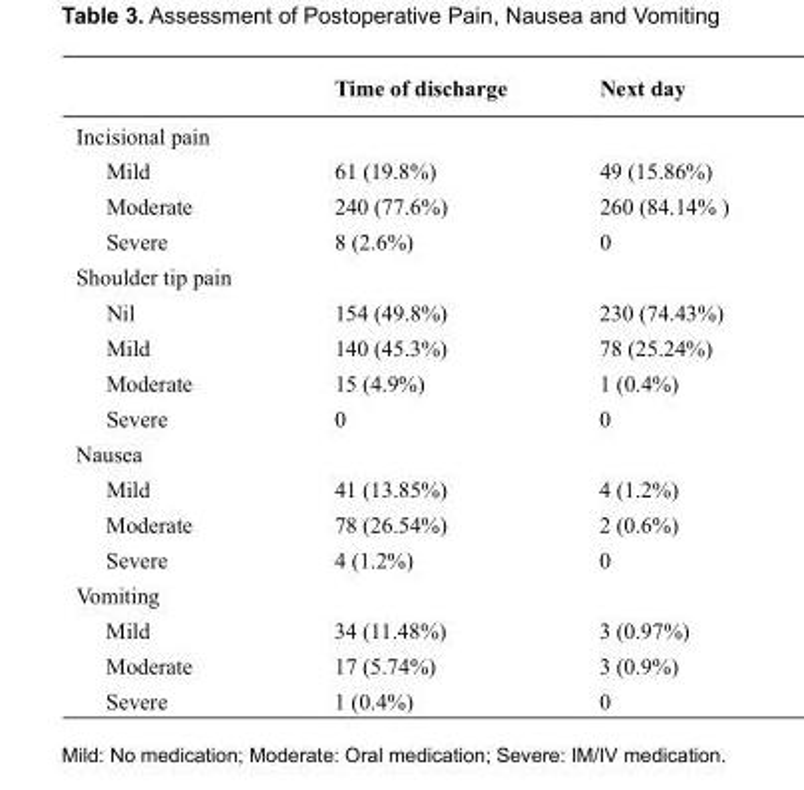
<table><thead><tr><td></td><td>Time of discharge</td><td>Next day</td></tr></thead><tbody><tr><td colspan="3">Incisional pain</td></tr><tr><td>Mild</td><td>61 (19.8%)</td><td>49 (15.86%)</td></tr><tr><td>Moderate</td><td>240 (77.6%)</td><td>260 (84.14% )</td></tr><tr><td>Severe</td><td>8 (2.6%)</td><td>0</td></tr><tr><td colspan="3">Shoulder tip pain</td></tr><tr><td>Nil</td><td>154 (49.8%)</td><td>230 (74.43%)</td></tr><tr><td>Mild</td><td>140 (45.3%)</td><td>78 (25.24%)</td></tr><tr><td>Moderate</td><td>15 (4.9%)</td><td>1 (0.4%)</td></tr><tr><td>Severe</td><td>0</td><td>0</td></tr><tr><td colspan="3">Nausea</td></tr><tr><td>Mild</td><td>41 (13.85%)</td><td>4 (1.2%)</td></tr><tr><td>Moderate</td><td>78 (26.54%)</td><td>2 (0.6%)</td></tr><tr><td>Severe</td><td>4 (1.2%)</td><td>0</td></tr><tr><td colspan="3">Vomiting</td></tr><tr><td>Mild</td><td>34 (11.48%)</td><td>3 (0.97%)</td></tr><tr><td>Moderate</td><td>17 (5.74%)</td><td>3 (0.9%)</td></tr><tr><td>Severe</td><td>1 (0.4%)</td><td>0</td></tr></tbody></table>